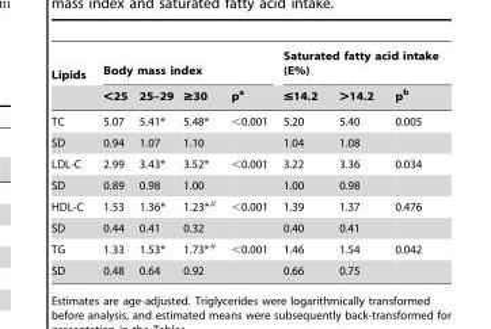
<table><thead><tr><td rowspan="2">Lipids</td><td colspan="4">Body mass index</td><td colspan="3">Saturated fatty acid intake (E%)</td></tr><tr><td>&lt;25</td><td>25–29</td><td>≥30</td><td>p<sup>a</sup></td><td>≤14.2</td><td>&gt;14.2</td><td>p<sup>b</sup></td></tr></thead><tbody><tr><td>TC</td><td>5.07</td><td>5.41*</td><td>5.48*</td><td>&lt;0.001</td><td>5.20</td><td>5.40</td><td>0.005</td></tr><tr><td>SD</td><td>0.94</td><td>1.07</td><td>1.10</td><td></td><td>1.04</td><td>1.08</td><td></td></tr><tr><td>LDL-C</td><td>2.99</td><td>3.43*</td><td>3.52*</td><td>&lt;0.001</td><td>3.22</td><td>3.36</td><td>0.034</td></tr><tr><td>SD</td><td>0.89</td><td>0.98</td><td>1.00</td><td></td><td>1.00</td><td>0.98</td><td></td></tr><tr><td>HDL-C</td><td>1.53</td><td>1.36*</td><td>1.23*#</td><td>&lt;0.001</td><td>1.39</td><td>1.37</td><td>0.476</td></tr><tr><td>SD</td><td>0.44</td><td>0.41</td><td>0.32</td><td></td><td>0.40</td><td>0.41</td><td></td></tr><tr><td>TG</td><td>1.33</td><td>1.53*</td><td>1.73*#</td><td>&lt;0.001</td><td>1.46</td><td>1.54</td><td>0.042</td></tr><tr><td>SD</td><td>0.48</td><td>0.64</td><td>0.92</td><td></td><td>0.66</td><td>0.75</td><td></td></tr></tbody></table>